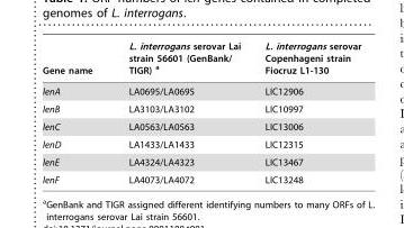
<table><thead><tr><td>Gene name</td><td>L. interrogans serovar Lai strain 56601 (GenBank/ TIGR) a</td><td>L. interrogans serovar Copenhageni strain Fiocruz L1-130</td></tr></thead><tbody><tr><td>lenA</td><td>LA0695/LA0695</td><td>LIC12906</td></tr><tr><td>lenB</td><td>LA3103/LA3102</td><td>LIC10997</td></tr><tr><td>lenC</td><td>LA0563/LA0563</td><td>LIC13006</td></tr><tr><td>lenD</td><td>LA1433/LA1433</td><td>LIC12315</td></tr><tr><td>lenE</td><td>LA4324/LA4323</td><td>LIC13467</td></tr><tr><td>lenF</td><td>LA4073/LA4072</td><td>LIC13248</td></tr></tbody></table>